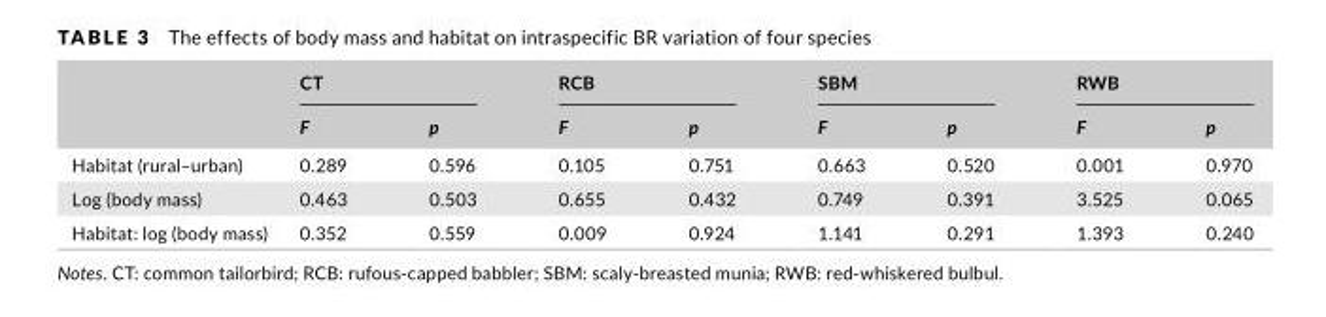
<table><thead><tr><td rowspan="2"></td><td colspan="2">CT</td><td colspan="2">RCB</td><td colspan="2">SBM</td><td colspan="2">RWB</td></tr><tr><td>F</td><td>p</td><td>F</td><td>p</td><td>F</td><td>p</td><td>F</td><td>p</td></tr></thead><tbody><tr><td>Habitat (rural–urban)</td><td>0.289</td><td>0.596</td><td>0.105</td><td>0.751</td><td>0.663</td><td>0.520</td><td>0.001</td><td>0.970</td></tr><tr><td>Log (body mass)</td><td>0.463</td><td>0.503</td><td>0.655</td><td>0.432</td><td>0.749</td><td>0.391</td><td>3.525</td><td>0.065</td></tr><tr><td>Habitat: log (body mass)</td><td>0.352</td><td>0.559</td><td>0.009</td><td>0.924</td><td>1.141</td><td>0.291</td><td>1.393</td><td>0.240</td></tr></tbody></table>